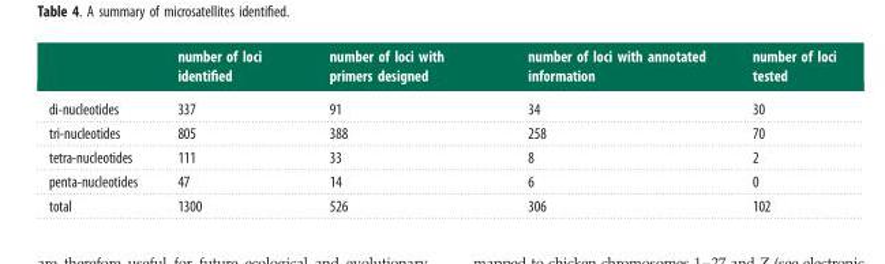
<table><thead><tr><td></td><td>number of loci identified</td><td>number of loci with primers designed</td><td>number of loci with annotated information</td><td>number of loci tested</td></tr></thead><tbody><tr><td>di-nucleotides</td><td>337</td><td>91</td><td>34</td><td>30</td></tr><tr><td>tri-nucleotides</td><td>805</td><td>388</td><td>258</td><td>70</td></tr><tr><td>tetra-nucleotides</td><td>111</td><td>33</td><td>8</td><td>2</td></tr><tr><td>penta-nucleotides</td><td>47</td><td>14</td><td>6</td><td>0</td></tr><tr><td>total</td><td>1300</td><td>526</td><td>306</td><td>102</td></tr></tbody></table>